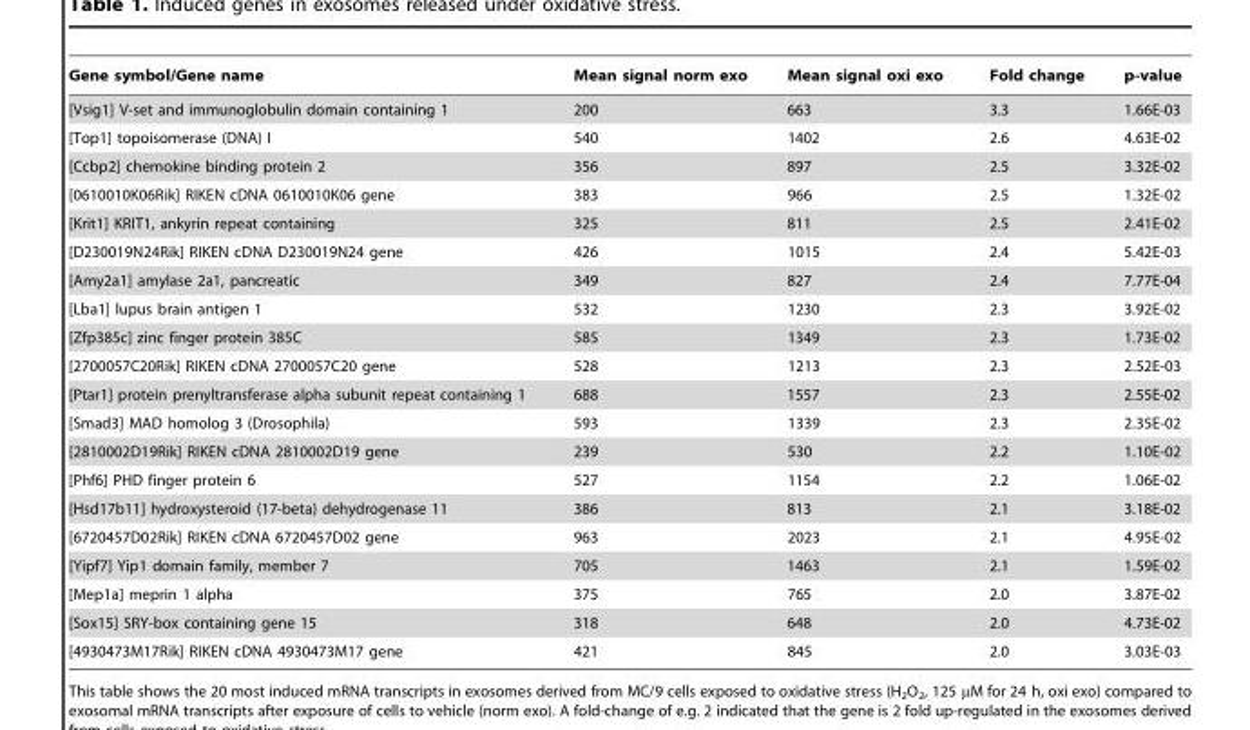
<table><thead><tr><td>Gene symbol/Gene name</td><td>Mean signal norm exo</td><td>Mean signal oxi exo</td><td>Fold change</td><td>p-value</td></tr></thead><tbody><tr><td>[Vsig1] V-set and immunoglobulin domain containing 1</td><td>200</td><td>663</td><td>3.3</td><td>1.66E-03</td></tr><tr><td>[Top1] topoisomerase (DNA) I</td><td>540</td><td>1402</td><td>2.6</td><td>4.63E-02</td></tr><tr><td>[Ccbp2] chemokine binding protein 2</td><td>356</td><td>897</td><td>2.5</td><td>3.32E-02</td></tr><tr><td>[0610010K06Rik] RIKEN cDNA 0610010K06 gene</td><td>383</td><td>966</td><td>2.5</td><td>1.32E-02</td></tr><tr><td>[Krit1] KRIT1, ankyrin repeat containing</td><td>325</td><td>811</td><td>2.5</td><td>2.41E-02</td></tr><tr><td>[D230019N24Rik] RIKEN cDNA D230019N24 gene</td><td>426</td><td>1015</td><td>2.4</td><td>5.42E-03</td></tr><tr><td>[Amy2a1] amylase 2a1, pancreatic</td><td>349</td><td>827</td><td>2.4</td><td>7.77E-04</td></tr><tr><td>[Lba1] lupus brain antigen 1</td><td>532</td><td>1230</td><td>2.3</td><td>3.92E-02</td></tr><tr><td>[Zfp385c] zinc finger protein 385C</td><td>585</td><td>1349</td><td>2.3</td><td>1.73E-02</td></tr><tr><td>[2700057C20Rik] RIKEN cDNA 2700057C20 gene</td><td>528</td><td>1213</td><td>2.3</td><td>2.52E-03</td></tr><tr><td>[Ptar1] protein prenyltransferase alpha subunit repeat containing 1</td><td>688</td><td>1557</td><td>2.3</td><td>2.55E-02</td></tr><tr><td>[Smad3] MAD homolog 3 (Drosophila)</td><td>593</td><td>1339</td><td>2.3</td><td>2.35E-02</td></tr><tr><td>[2810002D19Rik] RIKEN cDNA 2810002D19 gene</td><td>239</td><td>530</td><td>2.2</td><td>1.10E-02</td></tr><tr><td>[Phf6] PHD finger protein 6</td><td>527</td><td>1154</td><td>2.2</td><td>1.06E-02</td></tr><tr><td>[Hsd17b11] hydroxysteroid (17-beta) dehydrogenase 11</td><td>386</td><td>813</td><td>2.1</td><td>3.18E-02</td></tr><tr><td>[6720457D02Rik] RIKEN cDNA 6720457D02 gene</td><td>963</td><td>2023</td><td>2.1</td><td>4.95E-02</td></tr><tr><td>[Yipf7] Yip1 domain family, member 7</td><td>705</td><td>1463</td><td>2.1</td><td>1.59E-02</td></tr><tr><td>[Mep1a] meprin 1 alpha</td><td>375</td><td>765</td><td>2.0</td><td>3.87E-02</td></tr><tr><td>[Sox15] SRY-box containing gene 15</td><td>318</td><td>648</td><td>2.0</td><td>4.73E-02</td></tr><tr><td>[4930473M17Rik] RIKEN cDNA 4930473M17 gene</td><td>421</td><td>845</td><td>2.0</td><td>3.03E-03</td></tr></tbody></table>